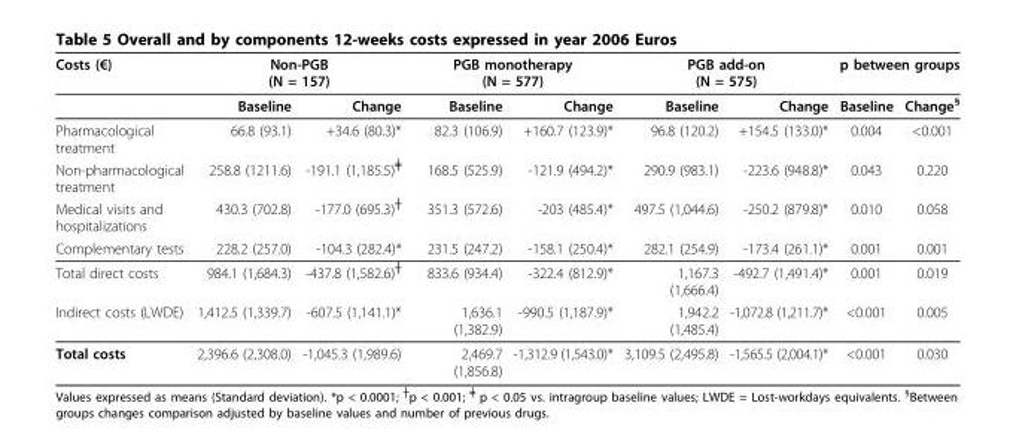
<table><thead><tr><td rowspan="2">Costs (€)</td><td colspan="2">Non-PGB (N = 157)</td><td colspan="2">PGB monotherapy (N = 577)</td><td colspan="2">PGB add-on (N = 575)</td><td colspan="2">p between groups</td></tr><tr><td>Baseline</td><td>Change</td><td>Baseline</td><td>Change</td><td>Baseline</td><td>Change</td><td>Baseline</td><td>Change<sup>§</sup></td></tr></thead><tbody><tr><td>Pharmacological treatment</td><td>66.8 (93.1)</td><td>+34.6 (80.3)*</td><td>82.3 (106.9)</td><td>+160.7 (123.9)*</td><td>96.8 (120.2)</td><td>+154.5 (133.0)*</td><td>0.004</td><td>&lt;0.001</td></tr><tr><td>Non-pharmacological treatment</td><td>258.8 (1211.6)</td><td>-191.1 (1,185.5)<sup>╪</sup></td><td>168.5 (525.9)</td><td>-121.9 (494.2)*</td><td>290.9 (983.1)</td><td>-223.6 (948.8)*</td><td>0.043</td><td>0.220</td></tr><tr><td>Medical visits and hospitalizations</td><td>430.3 (702.8)</td><td>-177.0 (695.3)<sup>┼</sup></td><td>351.3 (572.6)</td><td>-203 (485.4)*</td><td>497.5 (1,044.6)</td><td>-250.2 (879.8)*</td><td>0.010</td><td>0.058</td></tr><tr><td>Complementary tests</td><td>228.2 (257.0)</td><td>-104.3 (282.4)*</td><td>231.5 (247.2)</td><td>-158.1 (250.4)*</td><td>282.1 (254.9)</td><td>-173.4 (261.1)*</td><td>0.001</td><td>0.001</td></tr><tr><td>Total direct costs</td><td>984.1 (1,684.3)</td><td>-437.8 (1,582.6)<sup>┼</sup></td><td>833.6 (934.4)</td><td>-322.4 (812.9)*</td><td>1,167.3 (1,666.4)</td><td>-492.7 (1,491.4)*</td><td>0.001</td><td>0.019</td></tr><tr><td>Indirect costs (LWDE)</td><td>1,412.5 (1,339.7)</td><td>-607.5 (1,141.1)*</td><td>1,636.1 (1,382.9)</td><td>-990.5 (1,187.9)*</td><td>1,942.2 (1,485.4)</td><td>-1,072.8 (1,211.7)*</td><td>&lt;0.001</td><td>0.005</td></tr><tr><td>Total costs</td><td>2,396.6 (2,308.0)</td><td>-1,045.3 (1,989.6)</td><td>2,469.7 (1,856.8)</td><td>-1,312.9 (1,543.0)*</td><td>3,109.5 (2,495.8)</td><td>-1,565.5 (2,004.1)*</td><td>&lt;0.001</td><td>0.030</td></tr></tbody></table>